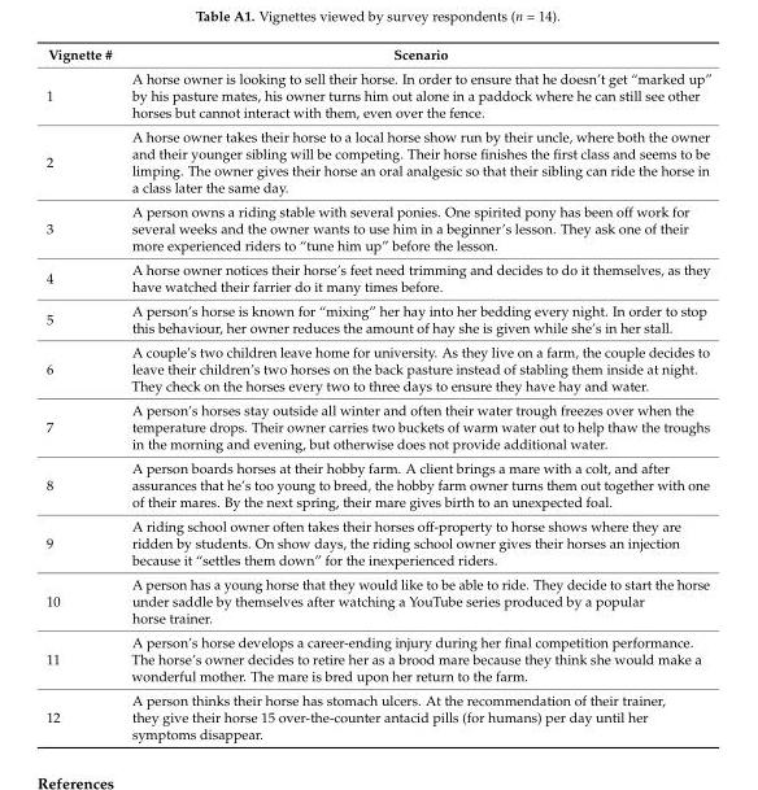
<table><thead><tr><td>Vignette #</td><td>Scenario</td></tr></thead><tbody><tr><td>1</td><td>A horse owner is looking to sell their horse. In order to ensure that he doesn’t get “marked up” by his pasture mates, his owner turns him out alone in a paddock where he can still see other horses but cannot interact with them, even over the fence.</td></tr><tr><td>2</td><td>A horse owner takes their horse to a local horse show run by their uncle, where both the owner and their younger sibling will be competing. Their horse finishes the first class and seems to be limping. The owner gives their horse an oral analgesic so that their sibling can ride the horse in a class later the same day.</td></tr><tr><td>3</td><td>A person owns a riding stable with several ponies. One spirited pony has been off work for several weeks and the owner wants to use him in a beginner’s lesson. They ask one of their more experienced riders to “tune him up” before the lesson.</td></tr><tr><td>4</td><td>A horse owner notices their horse’s feet need trimming and decides to do it themselves, as they have watched their farrier do it many times before.</td></tr><tr><td>5</td><td>A person’s horse is known for “mixing” her hay into her bedding every night. In order to stop this behaviour, her owner reduces the amount of hay she is given while she’s in her stall.</td></tr><tr><td>6</td><td>A couple’s two children leave home for university. As they live on a farm, the couple decides to leave their children’s two horses on the back pasture instead of stabling them inside at night. They check on the horses every two to three days to ensure they have hay and water.</td></tr><tr><td>7</td><td>A person’s horses stay outside all winter and often their water trough freezes over when the temperature drops. Their owner carries two buckets of warm water out to help thaw the troughs in the morning and evening, but otherwise does not provide additional water.</td></tr><tr><td>8</td><td>A person boards horses at their hobby farm. A client brings a mare with a colt, and after assurances that he’s too young to breed, the hobby farm owner turns them out together with one of their mares. By the next spring, their mare gives birth to an unexpected foal.</td></tr><tr><td>9</td><td>A riding school owner often takes their horses off-property to horse shows where they are ridden by students. On show days, the riding school owner gives their horses an injection because it “settles them down” for the inexperienced riders.</td></tr><tr><td>10</td><td>A person has a young horse that they would like to be able to ride. They decide to start the horse under saddle by themselves after watching a YouTube series produced by a popular horse trainer.</td></tr><tr><td>11</td><td>A person’s horse develops a career-ending injury during her final competition performance. The horse’s owner decides to retire her as a brood mare because they think she would make a wonderful mother. The mare is bred upon her return to the farm.</td></tr><tr><td>12</td><td>A person thinks their horse has stomach ulcers. At the recommendation of their trainer, they give their horse 15 over-the-counter antacid pills (for humans) per day until her symptoms disappear.</td></tr></tbody></table>